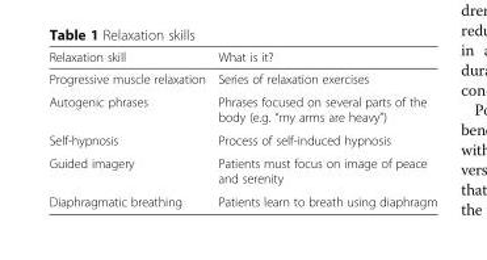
<table><thead><tr><td>Relaxation skill</td><td>What is it?</td></tr></thead><tbody><tr><td>Progressive muscle relaxation</td><td>Series of relaxation exercises</td></tr><tr><td>Autogenic phrases</td><td>Phrases focused on several parts of the body (e.g. “my arms are heavy”)</td></tr><tr><td>Self-hypnosis</td><td>Process of self-induced hypnosis</td></tr><tr><td>Guided imagery</td><td>Patients must focus on image of peace and serenity</td></tr><tr><td>Diaphragmatic breathing</td><td>Patients learn to breath using diaphragm</td></tr></tbody></table>